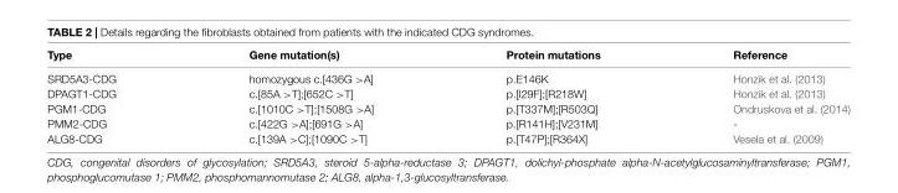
<table><thead><tr><td>Type</td><td>Gene mutation(s)</td><td>Protein mutations</td><td>Reference</td></tr></thead><tbody><tr><td>SRD5A3-CDG</td><td>homozygous c.[436G &gt;A]</td><td>p.E146K</td><td>Honzik et al. (2013)</td></tr><tr><td>DPAGT1-CDG</td><td>c.[85A &gt;T];[652C &gt;T]</td><td>p.[I29F];[R218W]</td><td>Honzik et al. (2013)</td></tr><tr><td>PGM1-CDG</td><td>c.[1010C &gt;T];[1508G &gt;A]</td><td>p.[T337M];[R503Q]</td><td>Ondruskova et al. (2014)</td></tr><tr><td>PMM2-CDG</td><td>c.[422G &gt;A];[691G &gt;A]</td><td>p.[R141H];[V231M]</td><td>-</td></tr><tr><td>ALG8-CDG</td><td>c.[139A &gt;C];[1090C &gt;T]</td><td>p.[T47P];[R364X]</td><td>Vesela et al. (2009)</td></tr></tbody></table>